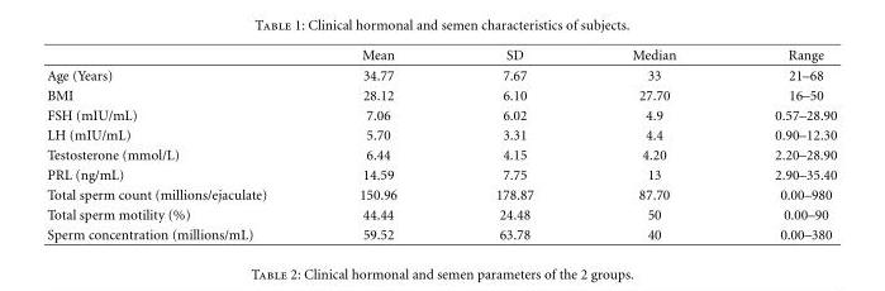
<table><thead><tr><td></td><td>Mean</td><td>SD</td><td>Median</td><td>Range</td></tr></thead><tbody><tr><td>Age (Years)</td><td>34.77</td><td>7.67</td><td>33</td><td>21–68</td></tr><tr><td>BMI</td><td>28.12</td><td>6.10</td><td>27.70</td><td>16–50</td></tr><tr><td>FSH (mIU/mL)</td><td>7.06</td><td>6.02</td><td>4.9</td><td>0.57–28.90</td></tr><tr><td>LH (mIU/mL)</td><td>5.70</td><td>3.31</td><td>4.4</td><td>0.90–12.30</td></tr><tr><td>Testosterone (mmol/L)</td><td>6.44</td><td>4.15</td><td>4.20</td><td>2.20–28.90</td></tr><tr><td>PRL (ng/mL)</td><td>14.59</td><td>7.75</td><td>13</td><td>2.90–35.40</td></tr><tr><td>Total sperm count (millions/ejaculate)</td><td>150.96</td><td>178.87</td><td>87.70</td><td>0.00–980</td></tr><tr><td>Total sperm motility (%)</td><td>44.44</td><td>24.48</td><td>50</td><td>0.00–90</td></tr><tr><td>Sperm concentration (millions/mL)</td><td>59.52</td><td>63.78</td><td>40</td><td>0.00–380</td></tr></tbody></table>